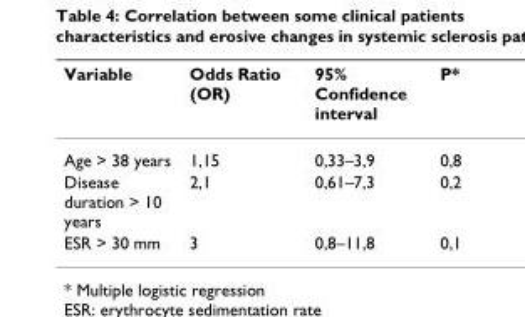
<table><thead><tr><td>Variable</td><td>Odds Ratio (OR)</td><td>95% Confidence interval</td><td>P*</td></tr></thead><tbody><tr><td>Age &gt; 38 years</td><td>1,15</td><td>0,33–3,9</td><td>0,8</td></tr><tr><td>Disease duration &gt; 10 years</td><td>2,1</td><td>0,61–7,3</td><td>0,2</td></tr><tr><td>ESR &gt; 30 mm</td><td>3</td><td>0,8–11,8</td><td>0,1</td></tr></tbody></table>